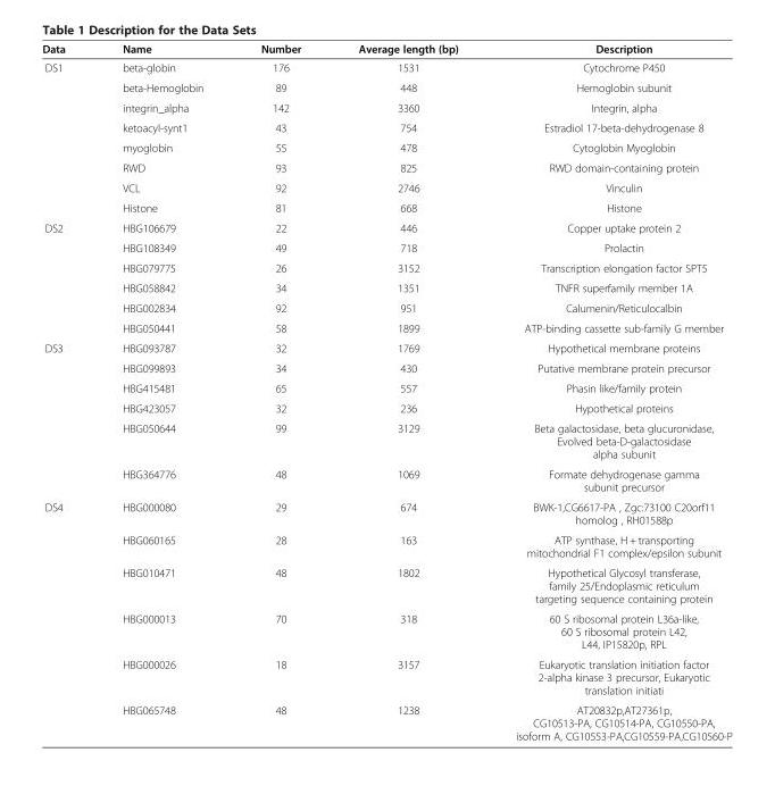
<table><thead><tr><td>Data</td><td>Name</td><td>Number</td><td>Average length (bp)</td><td>Description</td></tr></thead><tbody><tr><td rowspan="8">DS1</td><td>beta-globin</td><td>176</td><td>1531</td><td>Cytochrome P450</td></tr><tr><td>beta-Hemoglobin</td><td>89</td><td>448</td><td>Hemoglobin subunit</td></tr><tr><td>integrin_alpha</td><td>142</td><td>3360</td><td>Integrin, alpha</td></tr><tr><td>ketoacyl-synt1</td><td>43</td><td>754</td><td>Estradiol 17-beta-dehydrogenase 8</td></tr><tr><td>myoglobin</td><td>55</td><td>478</td><td>Cytoglobin Myoglobin</td></tr><tr><td>RWD</td><td>93</td><td>825</td><td>RWD domain-containing protein</td></tr><tr><td>VCL</td><td>92</td><td>2746</td><td>Vinculin</td></tr><tr><td>Histone</td><td>81</td><td>668</td><td>Histone</td></tr><tr><td rowspan="6">DS2</td><td>HBG106679</td><td>22</td><td>446</td><td>Copper uptake protein 2</td></tr><tr><td>HBG108349</td><td>49</td><td>718</td><td>Prolactin</td></tr><tr><td>HBG079775</td><td>26</td><td>3152</td><td>Transcription elongation factor SPT5</td></tr><tr><td>HBG058842</td><td>34</td><td>1351</td><td>TNFR superfamily member 1A</td></tr><tr><td>HBG002834</td><td>92</td><td>951</td><td>Calumenin/Reticulocalbin</td></tr><tr><td>HBG050441</td><td>58</td><td>1899</td><td>ATP-binding cassette sub-family G member</td></tr><tr><td rowspan="6">DS3</td><td>HBG093787</td><td>32</td><td>1769</td><td>Hypothetical membrane proteins</td></tr><tr><td>HBG099893</td><td>34</td><td>430</td><td>Putative membrane protein precursor</td></tr><tr><td>HBG415481</td><td>65</td><td>557</td><td>Phasin like/family protein</td></tr><tr><td>HBG423057</td><td>32</td><td>236</td><td>Hypothetical proteins</td></tr><tr><td>HBG050644</td><td>99</td><td>3129</td><td>Beta galactosidase, beta glucuronidase, Evolved beta-D-galactosidase alpha subunit</td></tr><tr><td>HBG364776</td><td>48</td><td>1069</td><td>Formate dehydrogenase gamma subunit precursor</td></tr><tr><td rowspan="6">DS4</td><td>HBG000080</td><td>29</td><td>674</td><td>BWK-1,CG6617-PA , Zgc:73100 C20orf11 homolog , RH01588p</td></tr><tr><td>HBG060165</td><td>28</td><td>163</td><td>ATP synthase, H + transporting mitochondrial F1 complex/epsilon subunit</td></tr><tr><td>HBG010471</td><td>48</td><td>1802</td><td>Hypothetical Glycosyl transferase, family 25/Endoplasmic reticulum targeting sequence containing protein</td></tr><tr><td>HBG000013</td><td>70</td><td>318</td><td>60 S ribosomal protein L36a-like, 60 S ribosomal protein L42, L44, IP15820p, RPL</td></tr><tr><td>HBG000026</td><td>18</td><td>3157</td><td>Eukaryotic translation initiation factor 2-alpha kinase 3 precursor, Eukaryotic translation initiati</td></tr><tr><td>HBG065748</td><td>48</td><td>1238</td><td>AT20832p,AT27361p, CG10513-PA, CG10514-PA, CG10550-PA, isoform A, CG10553-PA,CG10559-PA,CG10560-P</td></tr></tbody></table>